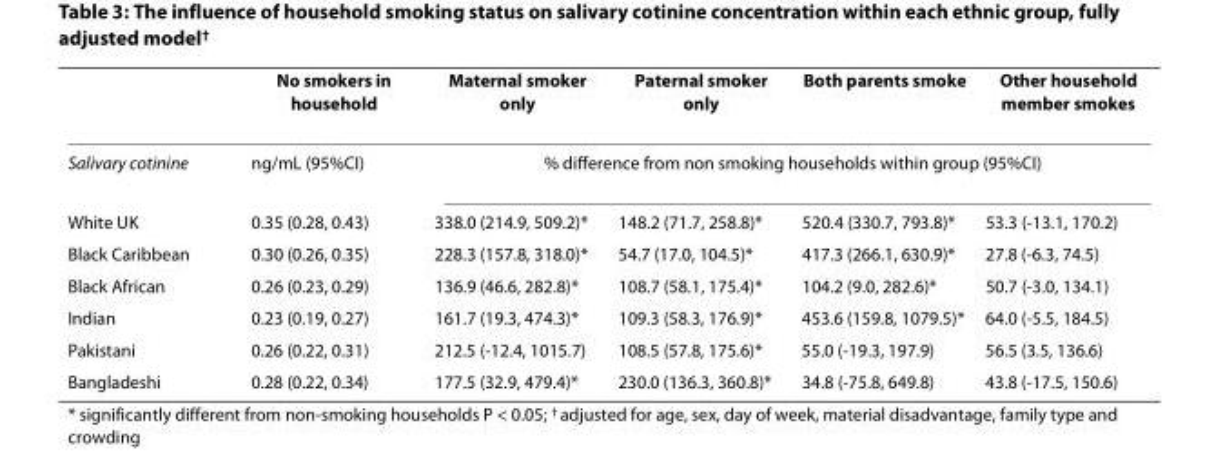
<table><thead><tr><td></td><td>No smokers in household</td><td>Maternal smoker only</td><td>Paternal smoker only</td><td>Both parents smoke</td><td>Other household member smokes</td></tr></thead><tbody><tr><td>Salivary cotinine</td><td>ng/mL (95%CI)</td><td colspan="4">% difference from non smoking households within group (95%CI)</td></tr><tr><td>White UK</td><td>0.35 (0.28, 0.43)</td><td>338.0 (214.9, 509.2)*</td><td>148.2 (71.7, 258.8)*</td><td>520.4 (330.7, 793.8)*</td><td>53.3 (-13.1, 170.2)</td></tr><tr><td>Black Caribbean</td><td>0.30 (0.26, 0.35)</td><td>228.3 (157.8, 318.0)*</td><td>54.7 (17.0, 104.5)*</td><td>417.3 (266.1, 630.9)*</td><td>27.8 (-6.3, 74.5)</td></tr><tr><td>Black African</td><td>0.26 (0.23, 0.29)</td><td>136.9 (46.6, 282.8)*</td><td>108.7 (58.1, 175.4)*</td><td>104.2 (9.0, 282.6)*</td><td>50.7 (-3.0, 134.1)</td></tr><tr><td>Indian</td><td>0.23 (0.19, 0.27)</td><td>161.7 (19.3, 474.3)*</td><td>109.3 (58.3, 176.9)*</td><td>453.6 (159.8, 1079.5)*</td><td>64.0 (-5.5, 184.5)</td></tr><tr><td>Pakistani</td><td>0.26 (0.22, 0.31)</td><td>212.5 (-12.4, 1015.7)</td><td>108.5 (57.8, 175.6)*</td><td>55.0 (-19.3, 197.9)</td><td>56.5 (3.5, 136.6)</td></tr><tr><td>Bangladeshi</td><td>0.28 (0.22, 0.34)</td><td>177.5 (32.9, 479.4)*</td><td>230.0 (136.3, 360.8)*</td><td>34.8 (-75.8, 649.8)</td><td>43.8 (-17.5, 150.6)</td></tr></tbody></table>